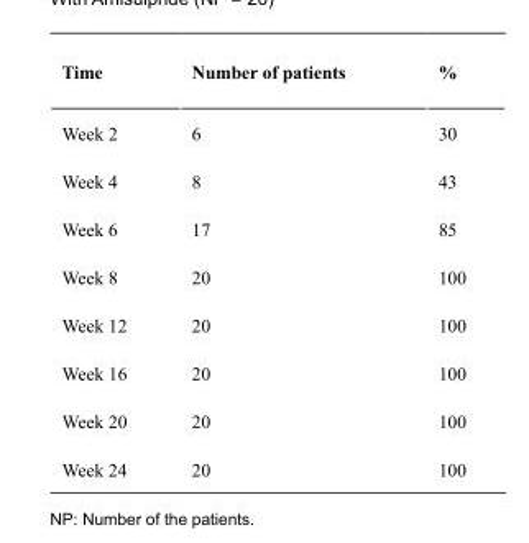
<table><thead><tr><td>Time</td><td>Number of patients</td><td>%</td></tr></thead><tbody><tr><td>Week 2</td><td>6</td><td>30</td></tr><tr><td>Week 4</td><td>8</td><td>43</td></tr><tr><td>Week 6</td><td>17</td><td>85</td></tr><tr><td>Week 8</td><td>20</td><td>100</td></tr><tr><td>Week 12</td><td>20</td><td>100</td></tr><tr><td>Week 16</td><td>20</td><td>100</td></tr><tr><td>Week 20</td><td>20</td><td>100</td></tr><tr><td>Week 24</td><td>20</td><td>100</td></tr></tbody></table>